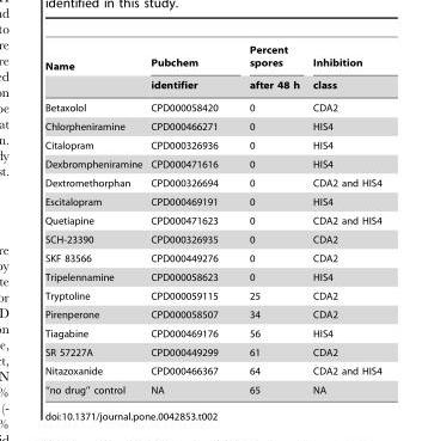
<table><thead><tr><td rowspan="2">Name</td><td rowspan="2">Pubchem identifier</td><td rowspan="2">Percent spores after 48 h</td><td rowspan="2">Inhibition class</td></tr><tr></tr></thead><tbody><tr><td>Betaxolol</td><td>CPD000058420</td><td>0</td><td>CDA2</td></tr><tr><td>Chlorpheniramine</td><td>CPD000466271</td><td>0</td><td>HIS4</td></tr><tr><td>Citalopram</td><td>CPD000326936</td><td>0</td><td>HIS4</td></tr><tr><td>Dexbrompheniramine</td><td>CPD000471616</td><td>0</td><td>HIS4</td></tr><tr><td>Dextromethorphan</td><td>CPD000326694</td><td>0</td><td>CDA2 and HIS4</td></tr><tr><td>Escitalopram</td><td>CPD000469191</td><td>0</td><td>HIS4</td></tr><tr><td>Quetiapine</td><td>CPD000471623</td><td>0</td><td>CDA2 and HIS4</td></tr><tr><td>SCH-23390</td><td>CPD000326935</td><td>0</td><td>CDA2</td></tr><tr><td>SKF 83566</td><td>CPD000449276</td><td>0</td><td>CDA2</td></tr><tr><td>Tripelennamine</td><td>CPD000058623</td><td>0</td><td>HIS4</td></tr><tr><td>Tryptoline</td><td>CPD000059115</td><td>25</td><td>CDA2</td></tr><tr><td>Pirenperone</td><td>CPD000058507</td><td>34</td><td>CDA2</td></tr><tr><td>Tiagabine</td><td>CPD000469176</td><td>56</td><td>HIS4</td></tr><tr><td>SR 57227A</td><td>CPD000449299</td><td>61</td><td>CDA2</td></tr><tr><td>Nitazoxanide</td><td>CPD000466367</td><td>64</td><td>CDA2 and HIS4</td></tr><tr><td>‘‘no drug’’ control</td><td>NA</td><td>65</td><td>NA</td></tr></tbody></table>